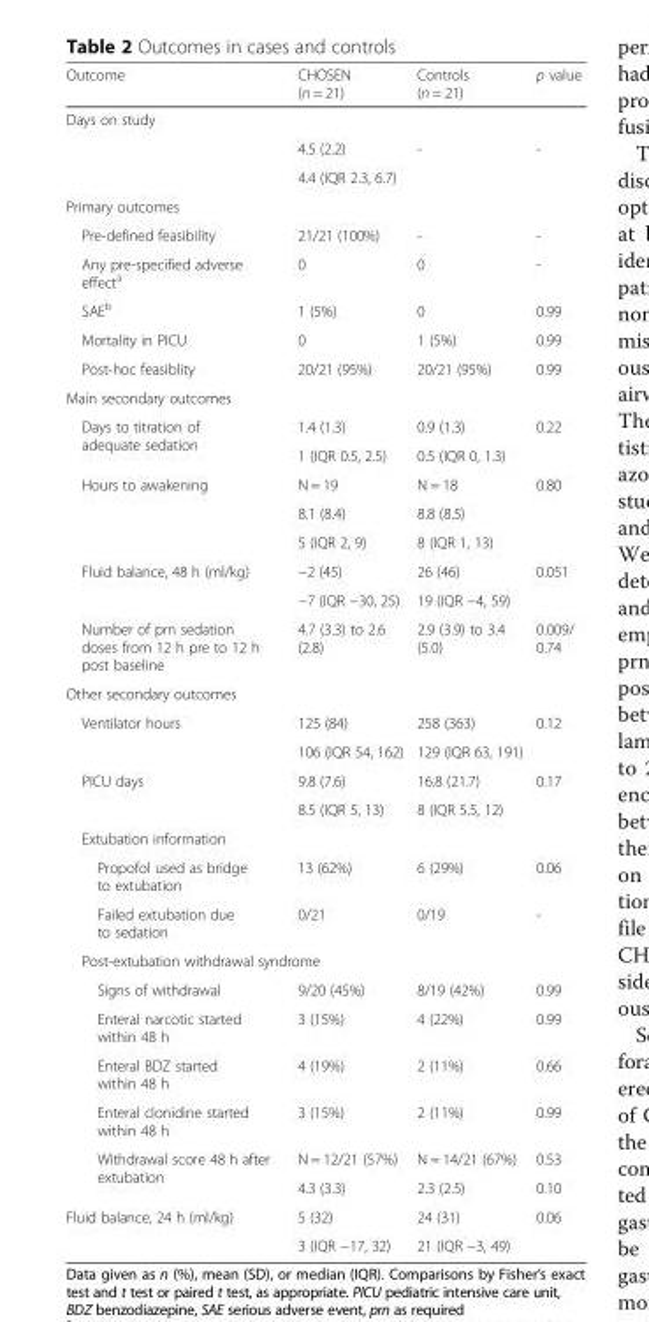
<table><thead><tr><td>Outcome</td><td>CHOSEN (n = 21)</td><td>Controls (n = 21)</td><td>p value</td></tr></thead><tbody><tr><td colspan="4">Days on study</td></tr><tr><td></td><td>4.5 (2.2)</td><td rowspan="2">-</td><td rowspan="2">-</td></tr><tr><td></td><td>4.4 (IQR 2.3, 6.7)</td></tr><tr><td colspan="4">Primary outcomes</td></tr><tr><td>Pre-defined feasibility</td><td>21/21 (100%)</td><td>-</td><td>-</td></tr><tr><td>Any pre-specified adverse effect<sup>a</sup></td><td>0</td><td>0</td><td>-</td></tr><tr><td>SAE<sup>b</sup></td><td>1 (5%)</td><td>0</td><td>0.99</td></tr><tr><td>Mortality in PICU</td><td>0</td><td>1 (5%)</td><td>0.99</td></tr><tr><td>Post-hoc feasiblity</td><td>20/21 (95%)</td><td>20/21 (95%)</td><td>0.99</td></tr><tr><td colspan="4">Main secondary outcomes</td></tr><tr><td rowspan="2">Days to titration of adequate sedation</td><td>1.4 (1.3)</td><td>0.9 (1.3)</td><td rowspan="2">0.22</td></tr><tr><td>1 (IQR 0.5, 2.5)</td><td>0.5 (IQR 0, 1.3)</td></tr><tr><td rowspan="3">Hours to awakening</td><td>N = 19</td><td>N = 18</td><td rowspan="3">0.80</td></tr><tr><td>8.1 (8.4)</td><td>8.8 (8.5)</td></tr><tr><td>5 (IQR 2, 9)</td><td>8 (IQR 1, 13)</td></tr><tr><td rowspan="2">Fluid balance, 48 h (ml/kg)</td><td>−2 (45)</td><td>26 (46)</td><td rowspan="2">0.051</td></tr><tr><td>−7 (IQR −30, 25)</td><td>19 (IQR −4, 59)</td></tr><tr><td>Number of prn sedation doses from 12 h pre to 12 h post baseline</td><td>4.7 (3.3) to 2.6 (2.8)</td><td>2.9 (3.9) to 3.4 (5.0)</td><td>0.009/ 0.74</td></tr><tr><td colspan="4">Other secondary outcomes</td></tr><tr><td rowspan="2">Ventilator hours</td><td>125 (84)</td><td>258 (363)</td><td rowspan="2">0.12</td></tr><tr><td>106 (IQR 54, 162)</td><td>129 (IQR 63, 191)</td></tr><tr><td rowspan="2">PICU days</td><td>9.8 (7.6)</td><td>16.8 (21.7)</td><td rowspan="2">0.17</td></tr><tr><td>8.5 (IQR 5, 13)</td><td>8 (IQR 5.5, 12)</td></tr><tr><td colspan="4">Extubation information</td></tr><tr><td>Propofol used as bridge to extubation</td><td>13 (62%)</td><td>6 (29%)</td><td>0.06</td></tr><tr><td>Failed extubation due to sedation</td><td>0/21</td><td>0/19</td><td>-</td></tr><tr><td colspan="4">Post-extubation withdrawal syndrome</td></tr><tr><td>Signs of withdrawal</td><td>9/20 (45%)</td><td>8/19 (42%)</td><td>0.99</td></tr><tr><td>Enteral narcotic started within 48 h</td><td>3 (15%)</td><td>4 (22%)</td><td>0.99</td></tr><tr><td>Enteral BDZ started within 48 h</td><td>4 (19%)</td><td>2 (11%)</td><td>0.66</td></tr><tr><td>Enteral clonidine started within 48 h</td><td>3 (15%)</td><td>2 (11%)</td><td>0.99</td></tr><tr><td rowspan="2">Withdrawal score 48 h after extubation</td><td>N = 12/21 (57%)</td><td>N = 14/21 (67%)</td><td>0.53</td></tr><tr><td>4.3 (3.3)</td><td>2.3 (2.5)</td><td>0.10</td></tr><tr><td rowspan="2">Fluid balance, 24 h (ml/kg)</td><td>5 (32)</td><td>24 (31)</td><td rowspan="2">0.06</td></tr><tr><td>3 (IQR −17, 32)</td><td>21 (IQR −3, 49)</td></tr></tbody></table>